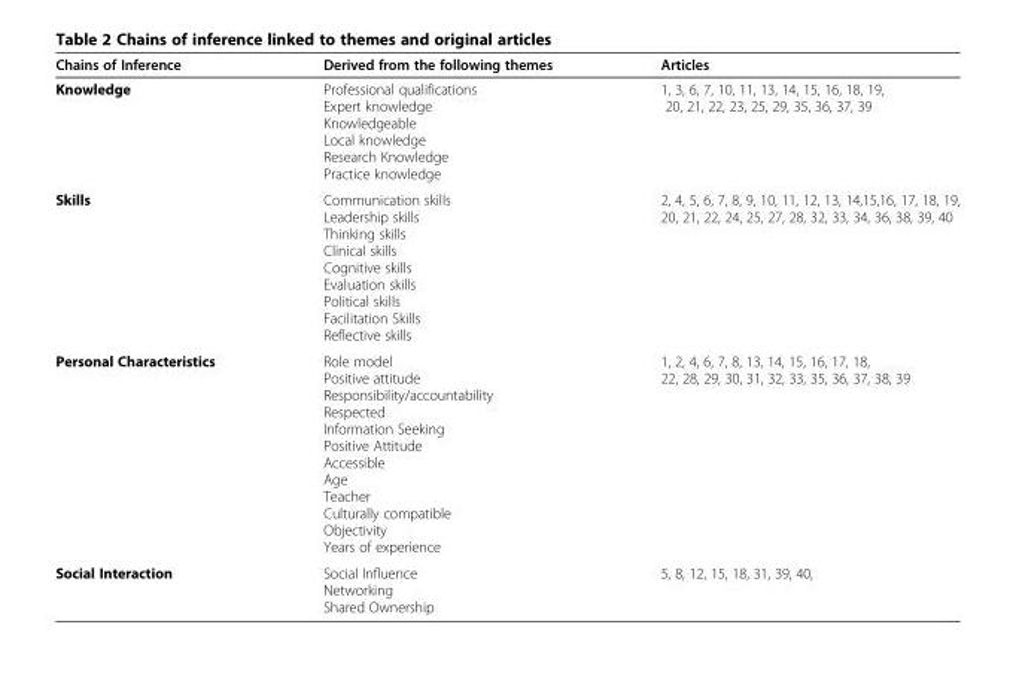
<table><thead><tr><td>Chains of Inference</td><td>Derived from the following themes</td><td>Articles</td></tr></thead><tbody><tr><td>Knowledge</td><td>Professional qualifications Expert knowledge Knowledgeable Local knowledge Research Knowledge Practice knowledge</td><td>1, 3, 6, 7, 10, 11, 13, 14, 15, 16, 18, 19, 20, 21, 22, 23, 25, 29, 35, 36, 37, 39</td></tr><tr><td>Skills</td><td>Communication skills Leadership skills Thinking skills Clinical skills Cognitive skills Evaluation skills Political skills Facilitation Skills Reflective skills</td><td>2, 4, 5, 6, 7, 8, 9, 10, 11, 12, 13, 14,15,16, 17, 18, 19, 20, 21, 22, 24, 25, 27, 28, 32, 33, 34, 36, 38, 39, 40</td></tr><tr><td>Personal Characteristics</td><td>Role model Positive attitude Responsibility/accountability Respected Information Seeking Positive Attitude Accessible Age Teacher Culturally compatible Objectivity Years of experience</td><td>1, 2, 4, 6, 7, 8, 13, 14, 15, 16, 17, 18, 22, 28, 29, 30, 31, 32, 33, 35, 36, 37, 38, 39</td></tr><tr><td>Social Interaction</td><td>Social Influence Networking Shared Ownership</td><td>5, 8, 12, 15, 18, 31, 39, 40,</td></tr></tbody></table>